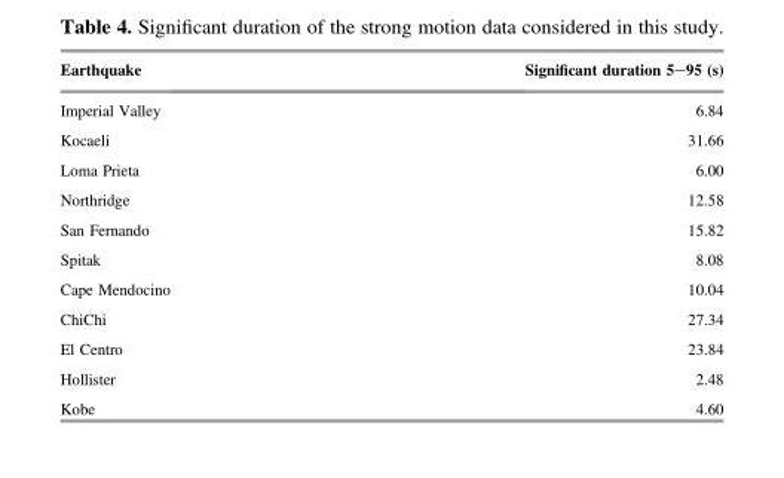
<table><thead><tr><td>Earthquake</td><td>Significant duration 5–95 (s)</td></tr></thead><tbody><tr><td>Imperial Valley</td><td>6.84</td></tr><tr><td>Kocaeli</td><td>31.66</td></tr><tr><td>Loma Prieta</td><td>6.00</td></tr><tr><td>Northridge</td><td>12.58</td></tr><tr><td>San Fernando</td><td>15.82</td></tr><tr><td>Spitak</td><td>8.08</td></tr><tr><td>Cape Mendocino</td><td>10.04</td></tr><tr><td>ChiChi</td><td>27.34</td></tr><tr><td>El Centro</td><td>23.84</td></tr><tr><td>Hollister</td><td>2.48</td></tr><tr><td>Kobe</td><td>4.60</td></tr></tbody></table>